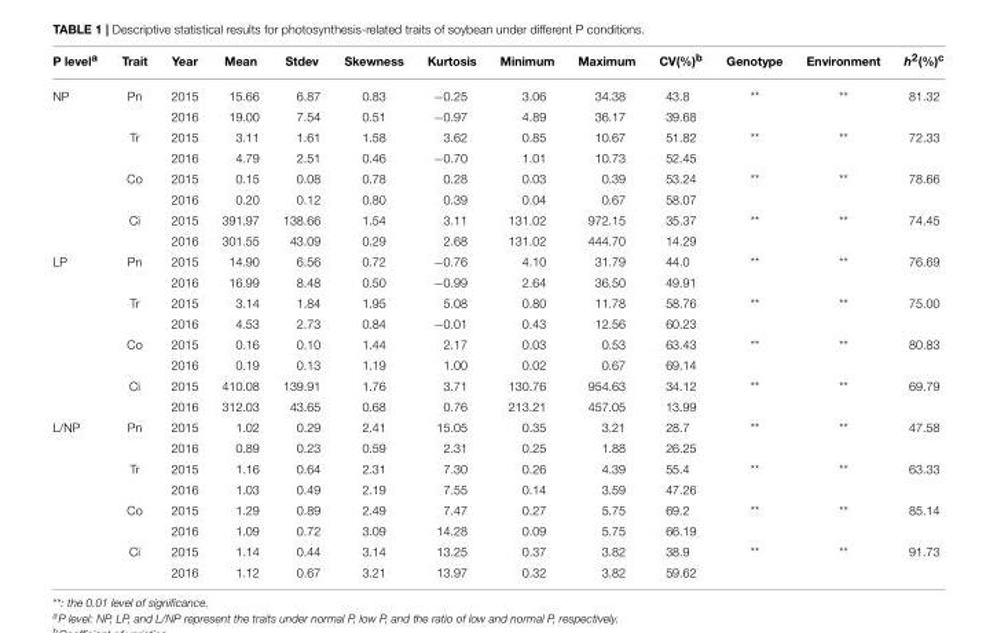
<table><thead><tr><td>P level<sup>a</sup></td><td>Trait</td><td>Year</td><td>Mean</td><td>Stdev</td><td>Skewness</td><td>Kurtosis</td><td>Minimum</td><td>Maximum</td><td>CV(%)<sup>b</sup></td><td>Genotype</td><td>Environment</td><td>h<sup>2</sup>(%)<sup>c</sup></td></tr></thead><tbody><tr><td rowspan="8">NP</td><td>Pn</td><td>2015</td><td>15.66</td><td>6.87</td><td>0.83</td><td>−0.25</td><td>3.06</td><td>34.38</td><td>43.8</td><td>**</td><td>**</td><td>81.32</td></tr><tr><td></td><td>2016</td><td>19.00</td><td>7.54</td><td>0.51</td><td>−0.97</td><td>4.89</td><td>36.17</td><td>39.68</td><td></td><td></td><td></td></tr><tr><td>Tr</td><td>2015</td><td>3.11</td><td>1.61</td><td>1.58</td><td>3.62</td><td>0.85</td><td>10.67</td><td>51.82</td><td>**</td><td>**</td><td>72.33</td></tr><tr><td></td><td>2016</td><td>4.79</td><td>2.51</td><td>0.46</td><td>−0.70</td><td>1.01</td><td>10.73</td><td>52.45</td><td></td><td></td><td></td></tr><tr><td>Co</td><td>2015</td><td>0.15</td><td>0.08</td><td>0.78</td><td>0.28</td><td>0.03</td><td>0.39</td><td>53.24</td><td>**</td><td>**</td><td>78.66</td></tr><tr><td></td><td>2016</td><td>0.20</td><td>0.12</td><td>0.80</td><td>0.39</td><td>0.04</td><td>0.67</td><td>58.07</td><td></td><td></td><td></td></tr><tr><td>Ci</td><td>2015</td><td>391.97</td><td>138.66</td><td>1.54</td><td>3.11</td><td>131.02</td><td>972.15</td><td>35.37</td><td>**</td><td>**</td><td>74.45</td></tr><tr><td></td><td>2016</td><td>301.55</td><td>43.09</td><td>0.29</td><td>2.68</td><td>131.02</td><td>444.70</td><td>14.29</td><td></td><td></td><td></td></tr><tr><td rowspan="8">LP</td><td>Pn</td><td>2015</td><td>14.90</td><td>6.56</td><td>0.72</td><td>−0.76</td><td>4.10</td><td>31.79</td><td>44.0</td><td>**</td><td>**</td><td>76.69</td></tr><tr><td></td><td>2016</td><td>16.99</td><td>8.48</td><td>0.50</td><td>−0.99</td><td>2.64</td><td>36.50</td><td>49.91</td><td></td><td></td><td></td></tr><tr><td>Tr</td><td>2015</td><td>3.14</td><td>1.84</td><td>1.95</td><td>5.08</td><td>0.80</td><td>11.78</td><td>58.76</td><td>**</td><td>**</td><td>75.00</td></tr><tr><td></td><td>2016</td><td>4.53</td><td>2.73</td><td>0.84</td><td>−0.01</td><td>0.43</td><td>12.56</td><td>60.23</td><td></td><td></td><td></td></tr><tr><td>Co</td><td>2015</td><td>0.16</td><td>0.10</td><td>1.44</td><td>2.17</td><td>0.03</td><td>0.53</td><td>63.43</td><td>**</td><td>**</td><td>80.83</td></tr><tr><td></td><td>2016</td><td>0.19</td><td>0.13</td><td>1.19</td><td>1.00</td><td>0.02</td><td>0.67</td><td>69.14</td><td></td><td></td><td></td></tr><tr><td>Ci</td><td>2015</td><td>410.08</td><td>139.91</td><td>1.76</td><td>3.71</td><td>130.76</td><td>954.63</td><td>34.12</td><td>**</td><td>**</td><td>69.79</td></tr><tr><td></td><td>2016</td><td>312.03</td><td>43.65</td><td>0.68</td><td>0.76</td><td>213.21</td><td>457.05</td><td>13.99</td><td></td><td></td><td></td></tr><tr><td rowspan="8">L/NP</td><td>Pn</td><td>2015</td><td>1.02</td><td>0.29</td><td>2.41</td><td>15.05</td><td>0.35</td><td>3.21</td><td>28.7</td><td>**</td><td>**</td><td>47.58</td></tr><tr><td></td><td>2016</td><td>0.89</td><td>0.23</td><td>0.59</td><td>2.31</td><td>0.25</td><td>1.88</td><td>26.25</td><td></td><td></td><td></td></tr><tr><td>Tr</td><td>2015</td><td>1.16</td><td>0.64</td><td>2.31</td><td>7.30</td><td>0.26</td><td>4.39</td><td>55.4</td><td>**</td><td>**</td><td>63.33</td></tr><tr><td></td><td>2016</td><td>1.03</td><td>0.49</td><td>2.19</td><td>7.55</td><td>0.14</td><td>3.59</td><td>47.26</td><td></td><td></td><td></td></tr><tr><td>Co</td><td>2015</td><td>1.29</td><td>0.89</td><td>2.49</td><td>7.47</td><td>0.27</td><td>5.75</td><td>69.2</td><td>**</td><td>**</td><td>85.14</td></tr><tr><td></td><td>2016</td><td>1.09</td><td>0.72</td><td>3.09</td><td>14.28</td><td>0.09</td><td>5.75</td><td>66.19</td><td></td><td></td><td></td></tr><tr><td>Ci</td><td>2015</td><td>1.14</td><td>0.44</td><td>3.14</td><td>13.25</td><td>0.37</td><td>3.82</td><td>38.9</td><td>**</td><td>**</td><td>91.73</td></tr><tr><td></td><td>2016</td><td>1.12</td><td>0.67</td><td>3.21</td><td>13.97</td><td>0.32</td><td>3.82</td><td>59.62</td><td></td><td></td><td></td></tr></tbody></table>